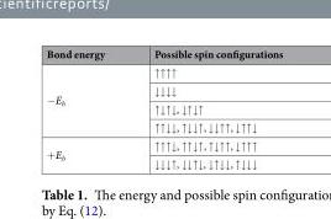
<table><thead><tr><td>Bond energy</td><td>Possible spin configurations</td></tr></thead><tbody><tr><td rowspan="4">−E<sub>b</sub></td><td>↑↑↑↑</td></tr><tr><td>↓↓↓↓</td></tr><tr><td>↑↓↑↓, ↓↑↓↑</td></tr><tr><td>↑↑↓↓, ↑↓↓↑, ↓↓↑↑, ↓↑↑↓</td></tr><tr><td rowspan="2">+E<sub>b</sub></td><td>↑↑↑↓, ↑↑↓↑, ↑↓↑↑, ↓↑↑↑</td></tr><tr><td>↓↓↓↑, ↓↓↑↓, ↓↑↓↓, ↑↓↓↓</td></tr></tbody></table>